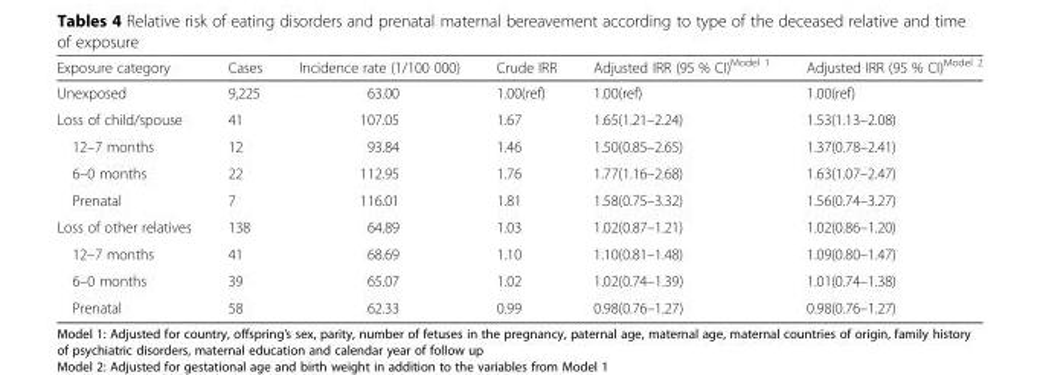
<table><thead><tr><td>Exposure category</td><td>Cases</td><td>Incidence rate (1/100 000)</td><td>Crude IRR</td><td>Adjusted IRR (95 % CI)<sup>Model 1</sup></td><td>Adjusted IRR (95 % CI)<sup>Model 2</sup></td></tr></thead><tbody><tr><td>Unexposed</td><td>9,225</td><td>63.00</td><td>1.00(ref)</td><td>1.00(ref)</td><td>1.00(ref)</td></tr><tr><td>Loss of child/spouse</td><td>41</td><td>107.05</td><td>1.67</td><td>1.65(1.21–2.24)</td><td>1.53(1.13–2.08)</td></tr><tr><td>12–7 months</td><td>12</td><td>93.84</td><td>1.46</td><td>1.50(0.85–2.65)</td><td>1.37(0.78–2.41)</td></tr><tr><td>6–0 months</td><td>22</td><td>112.95</td><td>1.76</td><td>1.77(1.16–2.68)</td><td>1.63(1.07–2.47)</td></tr><tr><td>Prenatal</td><td>7</td><td>116.01</td><td>1.81</td><td>1.58(0.75–3.32)</td><td>1.56(0.74–3.27)</td></tr><tr><td>Loss of other relatives</td><td>138</td><td>64.89</td><td>1.03</td><td>1.02(0.87–1.21)</td><td>1.02(0.86–1.20)</td></tr><tr><td>12–7 months</td><td>41</td><td>68.69</td><td>1.10</td><td>1.10(0.81–1.48)</td><td>1.09(0.80–1.47)</td></tr><tr><td>6–0 months</td><td>39</td><td>65.07</td><td>1.02</td><td>1.02(0.74–1.39)</td><td>1.01(0.74–1.38)</td></tr><tr><td>Prenatal</td><td>58</td><td>62.33</td><td>0.99</td><td>0.98(0.76–1.27)</td><td>0.98(0.76–1.27)</td></tr></tbody></table>